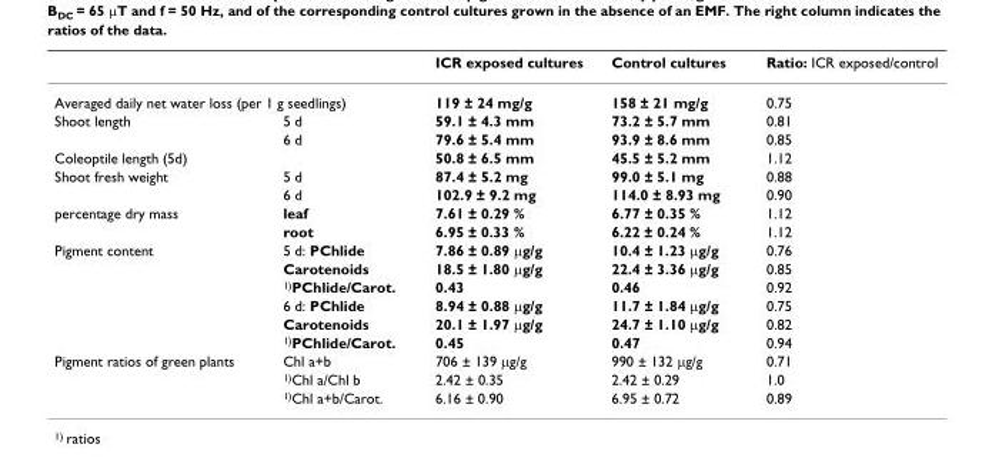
<table><thead><tr><td></td><td></td><td>ICR exposed cultures</td><td>Control cultures</td><td>Ratio: ICR exposed/control</td></tr></thead><tbody><tr><td colspan="2">Averaged daily net water loss (per 1 g seedlings)</td><td>119 ± 24 mg/g</td><td>158 ± 21 mg/g</td><td>0.75</td></tr><tr><td rowspan="2">Shoot length</td><td>5 d</td><td>59.1 ± 4.3 mm</td><td>73.2 ± 5.7 mm</td><td>0.81</td></tr><tr><td>6 d</td><td>79.6 ± 5.4 mm</td><td>93.9 ± 8.6 mm</td><td>0.85</td></tr><tr><td colspan="2">Coleoptile length (5d)</td><td>50.8 ± 6.5 mm</td><td>45.5 ± 5.2 mm</td><td>1.12</td></tr><tr><td rowspan="2">Shoot fresh weight</td><td>5 d</td><td>87.4 ± 5.2 mg</td><td>99.0 ± 5.1 mg</td><td>0.88</td></tr><tr><td>6 d</td><td>102.9 ± 9.2 mg</td><td>114.0 ± 8.93 mg</td><td>0.90</td></tr><tr><td rowspan="2">percentage dry mass</td><td>leaf</td><td>7.61 ± 0.29 %</td><td>6.77 ± 0.35 %</td><td>1.12</td></tr><tr><td>root</td><td>6.95 ± 0.33 %</td><td>6.22 ± 0.24 %</td><td>1.12</td></tr><tr><td rowspan="6">Pigment content</td><td>5 d: PChlide</td><td>7.86 ± 0.89 µg/g</td><td>10.4 ± 1.23 µg/g</td><td>0.76</td></tr><tr><td>Carotenoids</td><td>18.5 ± 1.80 µg/g</td><td>22.4 ± 3.36 µg/g</td><td>0.85</td></tr><tr><td><sup>1)</sup>PChlide/Carot.</td><td>0.43</td><td>0.46</td><td>0.92</td></tr><tr><td>6 d: PChlide</td><td>8.94 ± 0.88 µg/g</td><td>11.7 ± 1.84 µg/g</td><td>0.75</td></tr><tr><td>Carotenoids</td><td>20.1 ± 1.97 µg/g</td><td>24.7 ± 1.10 µg/g</td><td>0.82</td></tr><tr><td><sup>1)</sup>PChlide/Carot.</td><td>0.45</td><td>0.47</td><td>0.94</td></tr><tr><td rowspan="3">Pigment ratios of green plants</td><td>Chl a+b</td><td>706 ± 139 µg/g</td><td>990 ± 132 µg/g</td><td>0.71</td></tr><tr><td><sup>1)</sup>Chl a/Chl b</td><td>2.42 ± 0.35</td><td>2.42 ± 0.29</td><td>1.0</td></tr><tr><td><sup>1)</sup>Chl a+b/Carot.</td><td>6.16 ± 0.90</td><td>6.95 ± 0.72</td><td>0.89</td></tr></tbody></table>